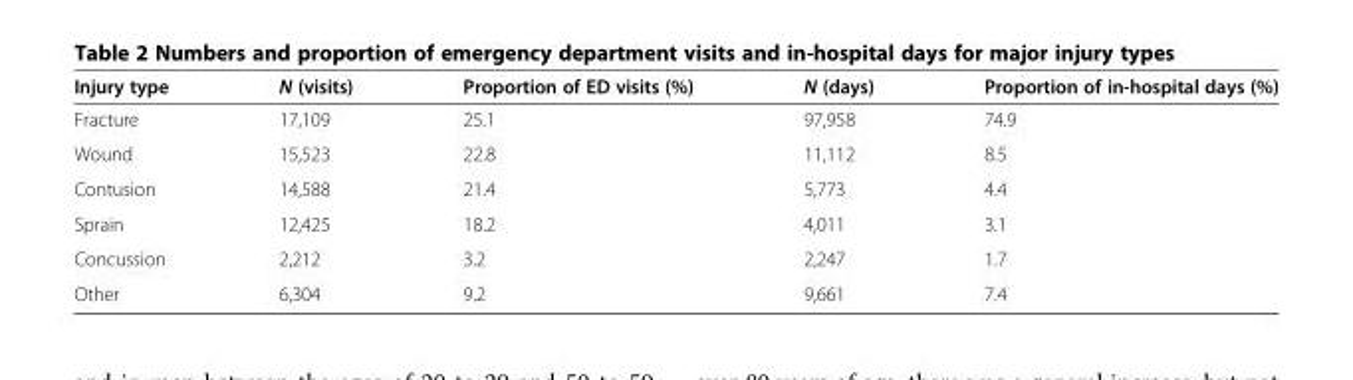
<table><thead><tr><td>Injury type</td><td>N (visits)</td><td>Proportion of ED visits (%)</td><td>N (days)</td><td>Proportion of in-hospital days (%)</td></tr></thead><tbody><tr><td>Fracture</td><td>17,109</td><td>25.1</td><td>97,958</td><td>74.9</td></tr><tr><td>Wound</td><td>15,523</td><td>22.8</td><td>11,112</td><td>8.5</td></tr><tr><td>Contusion</td><td>14,588</td><td>21.4</td><td>5,773</td><td>4.4</td></tr><tr><td>Sprain</td><td>12,425</td><td>18.2</td><td>4,011</td><td>3.1</td></tr><tr><td>Concussion</td><td>2,212</td><td>3.2</td><td>2,247</td><td>1.7</td></tr><tr><td>Other</td><td>6,304</td><td>9.2</td><td>9,661</td><td>7.4</td></tr></tbody></table>